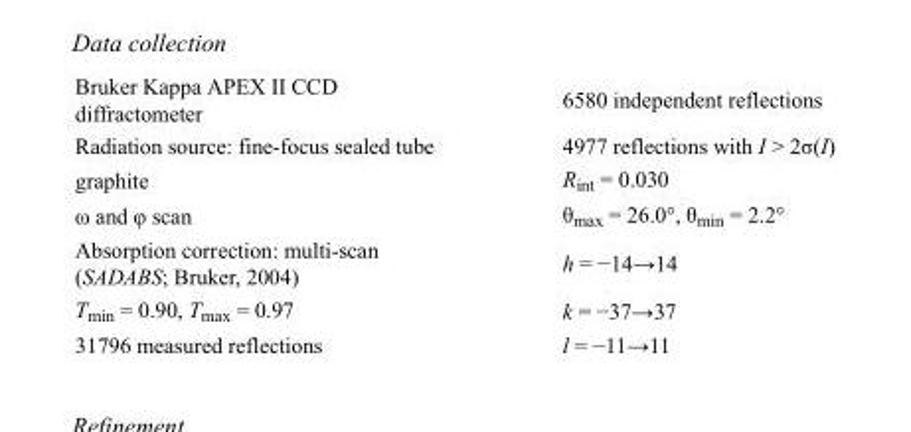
<table><tbody><tr><td>Bruker Kappa APEX II CCD diffractometer</td><td>6580 independent reflections</td></tr><tr><td>Radiation source: fine-focus sealed tube</td><td>4977 reflections with I &gt; 2σ(I)</td></tr><tr><td>graphite</td><td>R<sub>int</sub> = 0.030</td></tr><tr><td>ω and φ scan</td><td>θ<sub>max</sub> = 26.0°, θ<sub>min</sub> = 2.2°</td></tr><tr><td>Absorption correction: multi-scan (SADABS; Bruker, 2004)</td><td>h = −14→14</td></tr><tr><td>T<sub>min</sub> = 0.90, T<sub>max</sub> = 0.97</td><td>k = −37→37</td></tr><tr><td>31796 measured reflections</td><td>l = −11→11</td></tr></tbody></table>